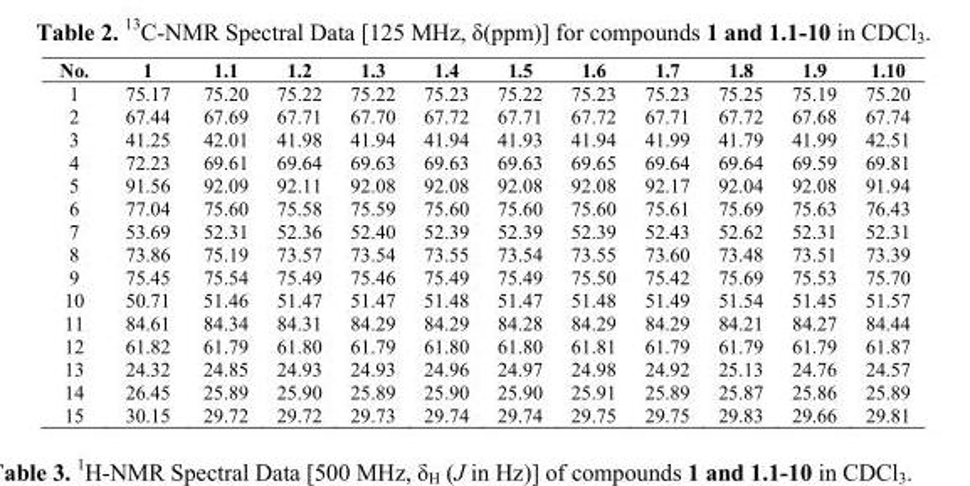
<table><thead><tr><td>No.</td><td>1</td><td>1.1</td><td>1.2</td><td>1.3</td><td>1.4</td><td>1.5</td><td>1.6</td><td>1.7</td><td>1.8</td><td>1.9</td><td>1.10</td></tr></thead><tbody><tr><td>1</td><td>75.17</td><td>75.20</td><td>75.22</td><td>75.22</td><td>75.23</td><td>75.22</td><td>75.23</td><td>75.23</td><td>75.25</td><td>75.19</td><td>75.20</td></tr><tr><td>2</td><td>67.44</td><td>67.69</td><td>67.71</td><td>67.70</td><td>67.72</td><td>67.71</td><td>67.72</td><td>67.71</td><td>67.72</td><td>67.68</td><td>67.74</td></tr><tr><td>3</td><td>41.25</td><td>42.01</td><td>41.98</td><td>41.94</td><td>41.94</td><td>41.93</td><td>41.94</td><td>41.99</td><td>41.79</td><td>41.99</td><td>42.51</td></tr><tr><td>4</td><td>72.23</td><td>69.61</td><td>69.64</td><td>69.63</td><td>69.63</td><td>69.63</td><td>69.65</td><td>69.64</td><td>69.64</td><td>69.59</td><td>69.81</td></tr><tr><td>5</td><td>91.56</td><td>92.09</td><td>92.11</td><td>92.08</td><td>92.08</td><td>92.08</td><td>92.08</td><td>92.17</td><td>92.04</td><td>92.08</td><td>91.94</td></tr><tr><td>6</td><td>77.04</td><td>75.60</td><td>75.58</td><td>75.59</td><td>75.60</td><td>75.60</td><td>75.60</td><td>75.61</td><td>75.69</td><td>75.63</td><td>76.43</td></tr><tr><td>7</td><td>53.69</td><td>52.31</td><td>52.36</td><td>52.40</td><td>52.39</td><td>52.39</td><td>52.39</td><td>52.43</td><td>52.62</td><td>52.31</td><td>52.31</td></tr><tr><td>8</td><td>73.86</td><td>75.19</td><td>73.57</td><td>73.54</td><td>73.55</td><td>73.54</td><td>73.55</td><td>73.60</td><td>73.48</td><td>73.51</td><td>73.39</td></tr><tr><td>9</td><td>75.45</td><td>75.54</td><td>75.49</td><td>75.46</td><td>75.49</td><td>75.49</td><td>75.50</td><td>75.42</td><td>75.69</td><td>75.53</td><td>75.70</td></tr><tr><td>10</td><td>50.71</td><td>51.46</td><td>51.47</td><td>51.47</td><td>51.48</td><td>51.47</td><td>51.48</td><td>51.49</td><td>51.54</td><td>51.45</td><td>51.57</td></tr><tr><td>11</td><td>84.61</td><td>84.34</td><td>84.31</td><td>84.29</td><td>84.29</td><td>84.28</td><td>84.29</td><td>84.29</td><td>84.21</td><td>84.27</td><td>84.44</td></tr><tr><td>12</td><td>61.82</td><td>61.79</td><td>61.80</td><td>61.79</td><td>61.80</td><td>61.80</td><td>61.81</td><td>61.79</td><td>61.79</td><td>61.79</td><td>61.87</td></tr><tr><td>13</td><td>24.32</td><td>24.85</td><td>24.93</td><td>24.93</td><td>24.96</td><td>24.97</td><td>24.98</td><td>24.92</td><td>25.13</td><td>24.76</td><td>24.57</td></tr><tr><td>14</td><td>26.45</td><td>25.89</td><td>25.90</td><td>25.89</td><td>25.90</td><td>25.90</td><td>25.91</td><td>25.89</td><td>25.87</td><td>25.86</td><td>25.89</td></tr><tr><td>15</td><td>30.15</td><td>29.72</td><td>29.72</td><td>29.73</td><td>29.74</td><td>29.74</td><td>29.75</td><td>29.75</td><td>29.83</td><td>29.66</td><td>29.81</td></tr></tbody></table>